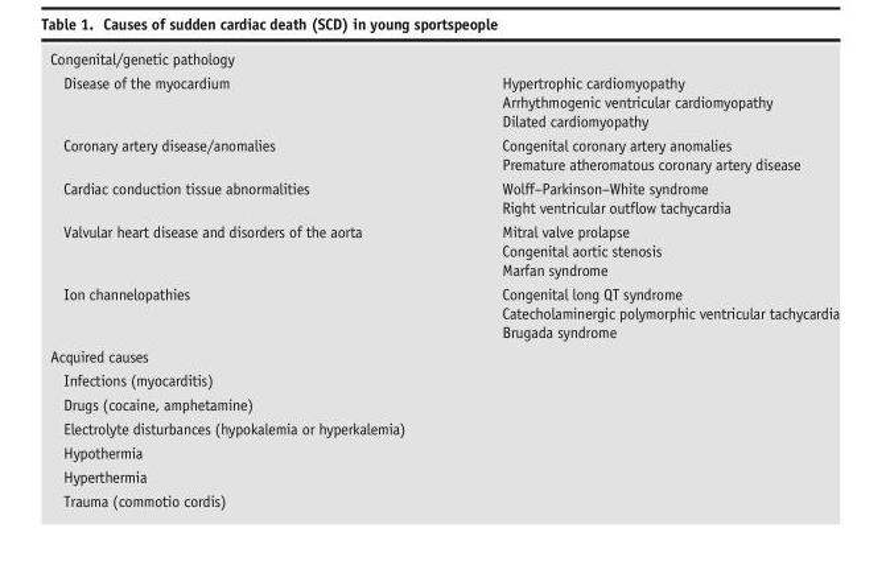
<table><tbody><tr><td colspan="2">Congenital/genetic pathology</td></tr><tr><td>Disease of the myocardium</td><td>Hypertrophic cardiomyopathy Arrhythmogenic ventricular cardiomyopathy Dilated cardiomyopathy</td></tr><tr><td>Coronary artery disease/anomalies</td><td>Congenital coronary artery anomalies Premature atheromatous coronary artery disease</td></tr><tr><td>Cardiac conduction tissue abnormalities</td><td>Wolff–Parkinson–White syndrome Right ventricular outflow tachycardia</td></tr><tr><td>Valvular heart disease and disorders of the aorta</td><td>Mitral valve prolapse Congenital aortic stenosis Marfan syndrome</td></tr><tr><td>Ion channelopathies</td><td>Congenital long QT syndrome Catecholaminergic polymorphic ventricular tachycardia Brugada syndrome</td></tr><tr><td colspan="2">Acquired causes</td></tr><tr><td colspan="2">Infections (myocarditis)</td></tr><tr><td colspan="2">Drugs (cocaine, amphetamine)</td></tr><tr><td colspan="2">Electrolyte disturbances (hypokalemia or hyperkalemia)</td></tr><tr><td colspan="2">Hypothermia</td></tr><tr><td colspan="2">Hyperthermia</td></tr><tr><td colspan="2">Trauma (commotio cordis)</td></tr></tbody></table>